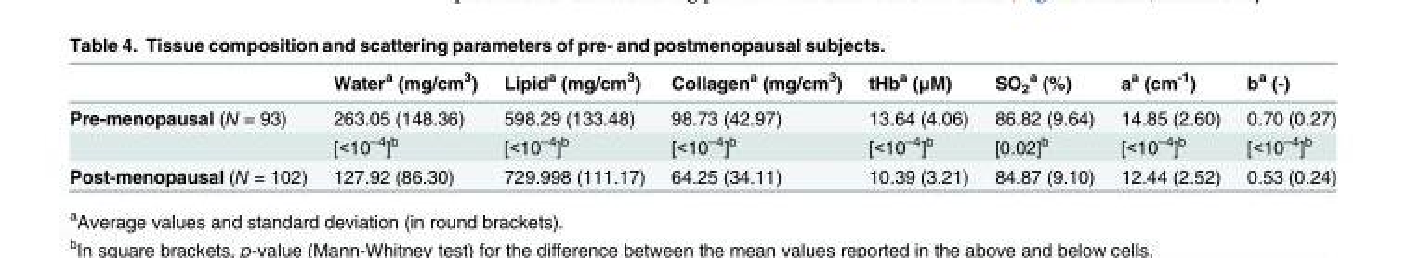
<table><thead><tr><td></td><td>Water<sup>a</sup> (mg/cm<sup>3</sup>)</td><td>Lipid<sup>a</sup> (mg/cm<sup>3</sup>)</td><td>Collagen<sup>a</sup> (mg/cm<sup>3</sup>)</td><td>tHb<sup>a</sup> (μM)</td><td>SO<sub>2</sub> <sup>a</sup> (%)</td><td>a<sup>a</sup> (cm<sup>-1</sup>)</td><td>b<sup>a</sup> (-)</td></tr></thead><tbody><tr><td rowspan="2">Pre-menopausal (N = 93)</td><td>263.05 (148.36)</td><td>598.29 (133.48)</td><td>98.73 (42.97)</td><td>13.64 (4.06)</td><td>86.82 (9.64)</td><td>14.85 (2.60)</td><td>0.70 (0.27)</td></tr><tr><td>[&lt;10<sup>–4</sup>]<sup>b</sup></td><td>[&lt;10<sup>–4</sup>]<sup>b</sup></td><td>[&lt;10<sup>–4</sup>]<sup>b</sup></td><td>[&lt;10<sup>–4</sup>]<sup>b</sup></td><td>[0.02]<sup>b</sup></td><td>[&lt;10<sup>–4</sup>]<sup>b</sup></td><td>[&lt;10<sup>–4</sup>]<sup>b</sup></td></tr><tr><td>Post-menopausal (N = 102)</td><td>127.92 (86.30)</td><td>729.998 (111.17)</td><td>64.25 (34.11)</td><td>10.39 (3.21)</td><td>84.87 (9.10)</td><td>12.44 (2.52)</td><td>0.53 (0.24)</td></tr></tbody></table>